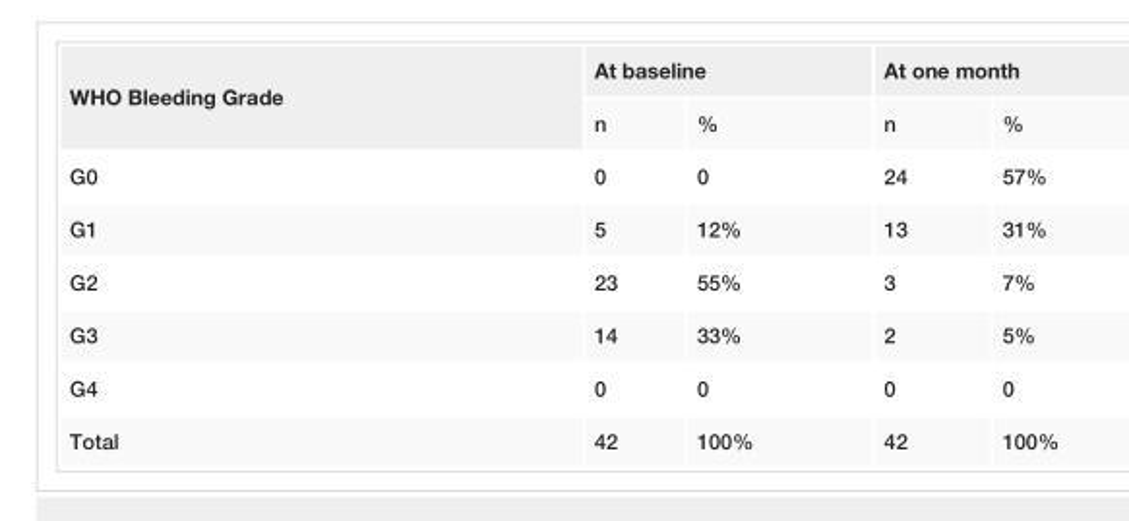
<table><tbody><tr><td rowspan="2">WHO Bleeding Grade</td><td colspan="2">At baseline</td><td colspan="2">At one month</td></tr><tr><td>n</td><td>%</td><td>n</td><td>%</td></tr><tr><td>G0</td><td>0</td><td>0</td><td>24</td><td>57%</td></tr><tr><td>G1</td><td>5</td><td>12%</td><td>13</td><td>31%</td></tr><tr><td>G2</td><td>23</td><td>55%</td><td>3</td><td>7%</td></tr><tr><td>G3</td><td>14</td><td>33%</td><td>2</td><td>5%</td></tr><tr><td>G4</td><td>0</td><td>0</td><td>0</td><td>0</td></tr><tr><td>Total</td><td>42</td><td>100%</td><td>42</td><td>100%</td></tr></tbody></table>